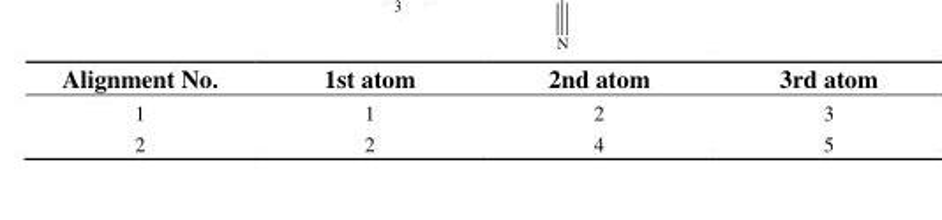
<table><thead><tr><td>Alignment No.</td><td>1st atom</td><td>2nd atom</td><td>3rd atom</td></tr></thead><tbody><tr><td>1</td><td>1</td><td>2</td><td>3</td></tr><tr><td>2</td><td>2</td><td>4</td><td>5</td></tr></tbody></table>